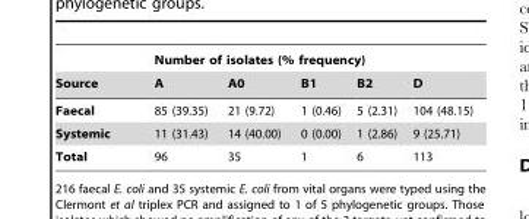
<table><thead><tr><td rowspan="2">Source</td><td colspan="5">Number of isolates (% frequency)</td></tr><tr><td>A</td><td>A0</td><td>B1</td><td>B2</td><td>D</td></tr></thead><tbody><tr><td>Faecal</td><td>85 (39.35)</td><td>21 (9.72)</td><td>1 (0.46)</td><td>5 (2.31)</td><td>104 (48.15)</td></tr><tr><td>Systemic</td><td>11 (31.43)</td><td>14 (40.00)</td><td>0 (0.00)</td><td>1 (2.86)</td><td>9 (25.71)</td></tr><tr><td>Total</td><td>96</td><td>35</td><td>1</td><td>6</td><td>113</td></tr></tbody></table>